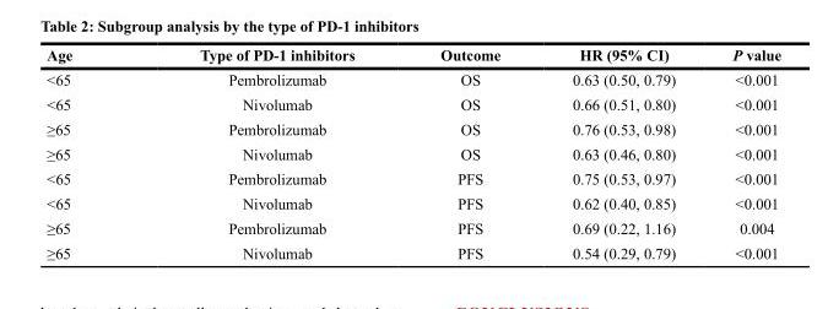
<table><thead><tr><td>Age</td><td>Type of PD-1 inhibitors</td><td>Outcome</td><td>HR (95% CI)</td><td>P value</td></tr></thead><tbody><tr><td>&lt;65</td><td>Pembrolizumab</td><td>OS</td><td>0.63 (0.50, 0.79)</td><td>&lt;0.001</td></tr><tr><td>&lt;65</td><td>Nivolumab</td><td>OS</td><td>0.66 (0.51, 0.80)</td><td>&lt;0.001</td></tr><tr><td>≥65</td><td>Pembrolizumab</td><td>OS</td><td>0.76 (0.53, 0.98)</td><td>&lt;0.001</td></tr><tr><td>≥65</td><td>Nivolumab</td><td>OS</td><td>0.63 (0.46, 0.80)</td><td>&lt;0.001</td></tr><tr><td>&lt;65</td><td>Pembrolizumab</td><td>PFS</td><td>0.75 (0.53, 0.97)</td><td>&lt;0.001</td></tr><tr><td>&lt;65</td><td>Nivolumab</td><td>PFS</td><td>0.62 (0.40, 0.85)</td><td>&lt;0.001</td></tr><tr><td>≥65</td><td>Pembrolizumab</td><td>PFS</td><td>0.69 (0.22, 1.16)</td><td>0.004</td></tr><tr><td>≥65</td><td>Nivolumab</td><td>PFS</td><td>0.54 (0.29, 0.79)</td><td>&lt;0.001</td></tr></tbody></table>